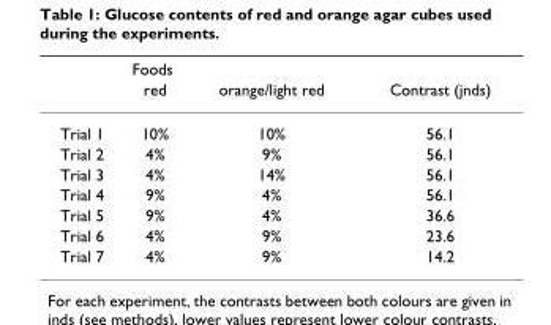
<table><thead><tr><td rowspan="2"></td><td colspan="3">Foods</td></tr><tr><td>red</td><td>orange/light red</td><td>Contrast (jnds)</td></tr></thead><tbody><tr><td>Trial 1</td><td>10%</td><td>10%</td><td>56.1</td></tr><tr><td>Trial 2</td><td>4%</td><td>9%</td><td>56.1</td></tr><tr><td>Trial 3</td><td>4%</td><td>14%</td><td>56.1</td></tr><tr><td>Trial 4</td><td>9%</td><td>4%</td><td>56.1</td></tr><tr><td>Trial 5</td><td>9%</td><td>4%</td><td>36.6</td></tr><tr><td>Trial 6</td><td>4%</td><td>9%</td><td>23.6</td></tr><tr><td>Trial 7</td><td>4%</td><td>9%</td><td>14.2</td></tr></tbody></table>